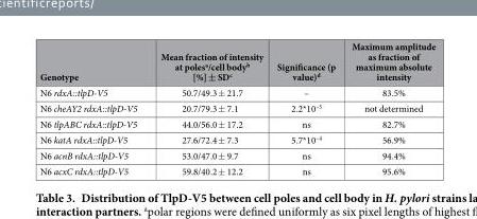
<table><thead><tr><td>Genotype</td><td>Mean fraction of intensity at poles<sup>a</sup>/cell body<sup>b</sup> [%] ± SD<sup>c</sup></td><td>Significance (p value)<sup>d</sup></td><td>Maximum amplitude as fraction of maximum absolute intensity</td></tr></thead><tbody><tr><td>N6 rdxA::tlpD-V5</td><td>50.7/49.3 ± 21.7</td><td>–</td><td>83.5%</td></tr><tr><td>N6 cheAY2 rdxA::tlpD-V5</td><td>20.7/79.3 ± 7.1</td><td>2.2*10<sup>–5</sup></td><td>not determined</td></tr><tr><td>N6 tlpABC rdxA::tlpD-V5</td><td>44.0/56.0 ± 17.2</td><td>ns</td><td>82.7%</td></tr><tr><td>N6 katA rdxA::tlpD-V5</td><td>27.6/72.4 ± 7.3</td><td>5.7*10<sup>–4</sup></td><td>56.9%</td></tr><tr><td>N6 acnB rdxA::tlpD-V5</td><td>53.0/47.0 ± 9.7</td><td>ns</td><td>94.4%</td></tr><tr><td>N6 acxC rdxA::tlpD-V5</td><td>59.8/40.2 ± 12.2</td><td>ns</td><td>95.6%</td></tr></tbody></table>